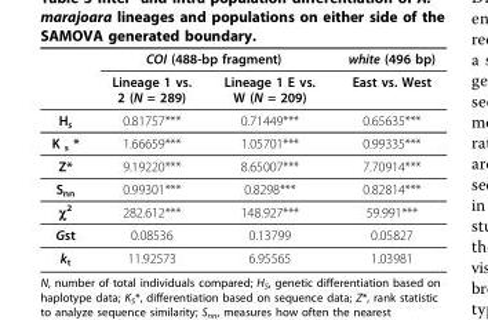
<table><thead><tr><td rowspan="2"></td><td colspan="2">COI (488-bp fragment)</td><td rowspan="2">white (496 bp) East vs. West</td></tr><tr><td>Lineage 1 vs. 2 (N = 289)</td><td>Lineage 1 E vs. W (N = 209)</td></tr></thead><tbody><tr><td>H<sub>s</sub></td><td>0.81757***</td><td>0.71449***</td><td>0.65635***</td></tr><tr><td>K <sub>s</sub> *</td><td>1.66659***</td><td>1.05701***</td><td>0.99335***</td></tr><tr><td>Z*</td><td>9.19220***</td><td>8.65007***</td><td>7.70914***</td></tr><tr><td>S<sub>nn</sub></td><td>0.99301***</td><td>0.8298***</td><td>0.82814***</td></tr><tr><td>χ<sup>2</sup></td><td>282.612***</td><td>148.927***</td><td>59.991***</td></tr><tr><td>Gst</td><td>0.08536</td><td>0.13799</td><td>0.05827</td></tr><tr><td>k<sub>t</sub></td><td>11.92573</td><td>6.95565</td><td>1.03981</td></tr></tbody></table>